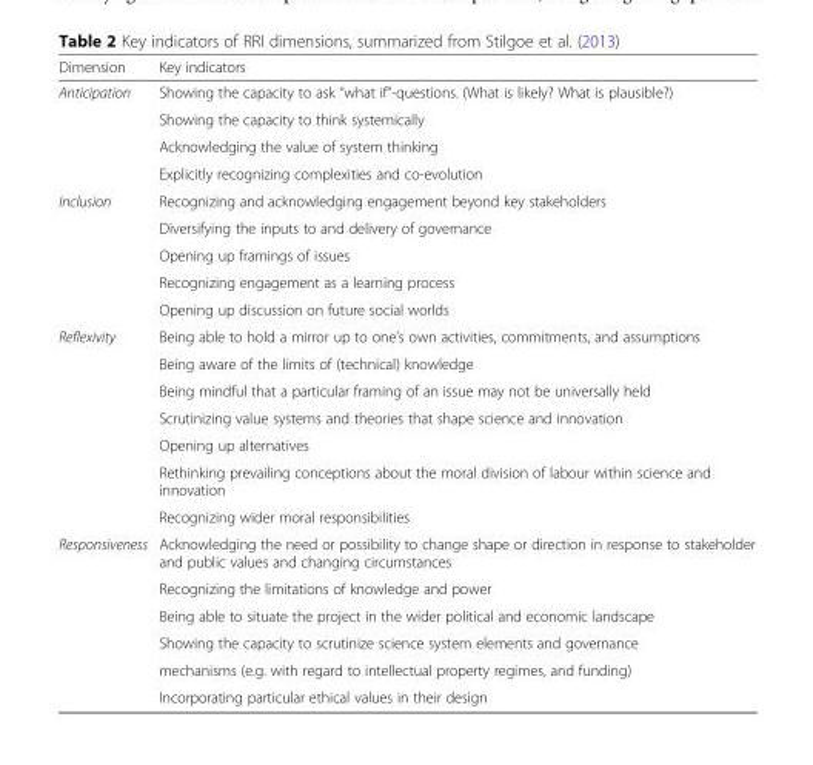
<table><thead><tr><td>Dimension</td><td>Key indicators</td></tr></thead><tbody><tr><td rowspan="4">Anticipation</td><td>Showing the capacity to ask “what if”-questions. (What is likely? What is plausible?)</td></tr><tr><td>Showing the capacity to think systemically</td></tr><tr><td>Acknowledging the value of system thinking</td></tr><tr><td>Explicitly recognizing complexities and co-evolution</td></tr><tr><td rowspan="5">Inclusion</td><td>Recognizing and acknowledging engagement beyond key stakeholders</td></tr><tr><td>Diversifying the inputs to and delivery of governance</td></tr><tr><td>Opening up framings of issues</td></tr><tr><td>Recognizing engagement as a learning process</td></tr><tr><td>Opening up discussion on future social worlds</td></tr><tr><td rowspan="7">Reflexivity</td><td>Being able to hold a mirror up to one’s own activities, commitments, and assumptions</td></tr><tr><td>Being aware of the limits of (technical) knowledge</td></tr><tr><td>Being mindful that a particular framing of an issue may not be universally held</td></tr><tr><td>Scrutinizing value systems and theories that shape science and innovation</td></tr><tr><td>Opening up alternatives</td></tr><tr><td>Rethinking prevailing conceptions about the moral division of labour within science and innovation</td></tr><tr><td>Recognizing wider moral responsibilities</td></tr><tr><td rowspan="6">Responsiveness</td><td>Acknowledging the need or possibility to change shape or direction in response to stakeholder and public values and changing circumstances</td></tr><tr><td>Recognizing the limitations of knowledge and power</td></tr><tr><td>Being able to situate the project in the wider political and economic landscape</td></tr><tr><td>Showing the capacity to scrutinize science system elements and governance</td></tr><tr><td>mechanisms (e.g. with regard to intellectual property regimes, and funding)</td></tr><tr><td>Incorporating particular ethical values in their design</td></tr></tbody></table>